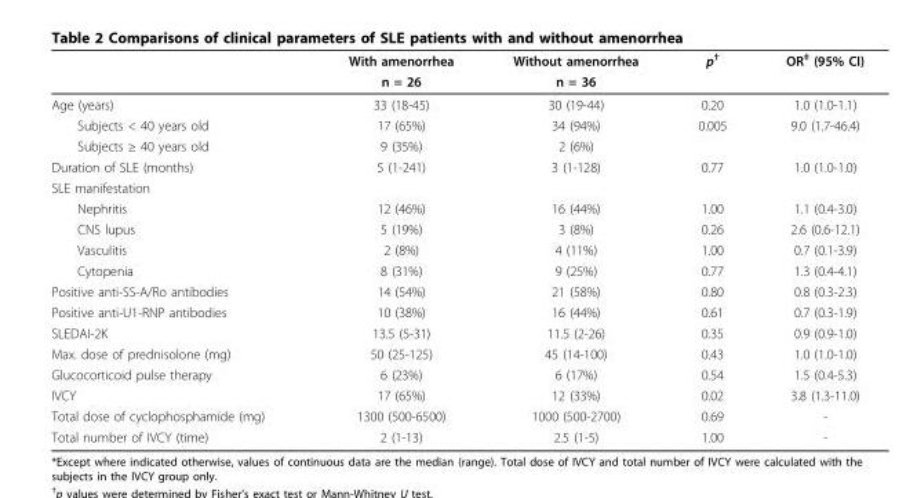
<table><thead><tr><td rowspan="2"></td><td rowspan="2">With amenorrhea n = 26</td><td rowspan="2">Without amenorrhea n = 36</td><td rowspan="2">p<sup>†</sup></td><td rowspan="2">OR<sup>‡</sup> (95% CI)</td></tr><tr></tr></thead><tbody><tr><td>Age (years)</td><td>33 (18-45)</td><td>30 (19-44)</td><td>0.20</td><td>1.0 (1.0-1.1)</td></tr><tr><td>Subjects &lt; 40 years old</td><td>17 (65%)</td><td>34 (94%)</td><td>0.005</td><td>9.0 (1.7-46.4)</td></tr><tr><td>Subjects ≥ 40 years old</td><td>9 (35%)</td><td>2 (6%)</td><td></td><td></td></tr><tr><td>Duration of SLE (months)</td><td>5 (1-241)</td><td>3 (1-128)</td><td>0.77</td><td>1.0 (1.0-1.0)</td></tr><tr><td colspan="5">SLE manifestation</td></tr><tr><td>Nephritis</td><td>12 (46%)</td><td>16 (44%)</td><td>1.00</td><td>1.1 (0.4-3.0)</td></tr><tr><td>CNS lupus</td><td>5 (19%)</td><td>3 (8%)</td><td>0.26</td><td>2.6 (0.6-12.1)</td></tr><tr><td>Vasculitis</td><td>2 (8%)</td><td>4 (11%)</td><td>1.00</td><td>0.7 (0.1-3.9)</td></tr><tr><td>Cytopenia</td><td>8 (31%)</td><td>9 (25%)</td><td>0.77</td><td>1.3 (0.4-4.1)</td></tr><tr><td>Positive anti-SS-A/Ro antibodies</td><td>14 (54%)</td><td>21 (58%)</td><td>0.80</td><td>0.8 (0.3-2.3)</td></tr><tr><td>Positive anti-U1-RNP antibodies</td><td>10 (38%)</td><td>16 (44%)</td><td>0.61</td><td>0.7 (0.3-1.9)</td></tr><tr><td>SLEDAI-2K</td><td>13.5 (5-31)</td><td>11.5 (2-26)</td><td>0.35</td><td>0.9 (0.9-1.0)</td></tr><tr><td>Max. dose of prednisolone (mg)</td><td>50 (25-125)</td><td>45 (14-100)</td><td>0.43</td><td>1.0 (1.0-1.0)</td></tr><tr><td>Glucocorticoid pulse therapy</td><td>6 (23%)</td><td>6 (17%)</td><td>0.54</td><td>1.5 (0.4-5.3)</td></tr><tr><td>IVCY</td><td>17 (65%)</td><td>12 (33%)</td><td>0.02</td><td>3.8 (1.3-11.0)</td></tr><tr><td>Total dose of cyclophosphamide (mg)</td><td>1300 (500-6500)</td><td>1000 (500-2700)</td><td>0.69</td><td>-</td></tr><tr><td>Total number of IVCY (time)</td><td>2 (1-13)</td><td>2.5 (1-5)</td><td>1.00</td><td>-</td></tr></tbody></table>